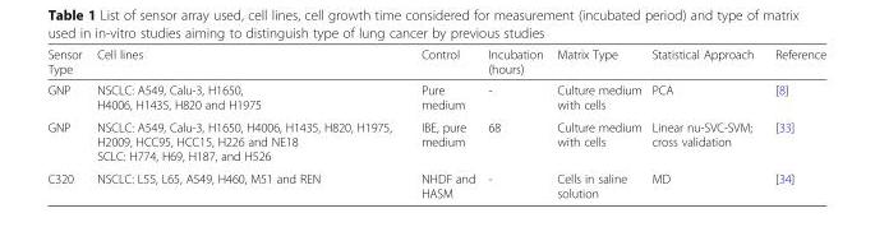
<table><thead><tr><td>Sensor Type</td><td>Cell lines</td><td>Control</td><td>Incubation (hours)</td><td>Matrix Type</td><td>Statistical Approach</td><td>Reference</td></tr></thead><tbody><tr><td>GNP</td><td>NSCLC: A549, Calu-3, H1650, H4006, H1435, H820 and H1975</td><td>Pure medium</td><td>-</td><td>Culture medium with cells</td><td>PCA</td><td>[8]</td></tr><tr><td>GNP</td><td>NSCLC: A549, Calu-3, H1650, H4006, H1435, H820, H1975, H2009, HCC95, HCC15, H226 and NE18 SCLC: H774, H69, H187, and H526</td><td>IBE, pure medium</td><td>68</td><td>Culture medium with cells</td><td>Linear nu-SVC-SVM; cross validation</td><td>[33]</td></tr><tr><td>C320</td><td>NSCLC: L55, L65, A549, H460, M51 and REN</td><td>NHDF and HASM</td><td>-</td><td>Cells in saline solution</td><td>MD</td><td>[34]</td></tr></tbody></table>